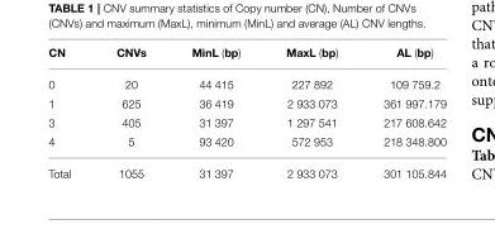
<table><thead><tr><td>CN</td><td>CNVs</td><td>MinL (bp)</td><td>MaxL (bp)</td><td>AL (bp)</td></tr></thead><tbody><tr><td>0</td><td>20</td><td>44 415</td><td>227 892</td><td>109 759.2</td></tr><tr><td>1</td><td>625</td><td>36 419</td><td>2 933 073</td><td>361 997.179</td></tr><tr><td>3</td><td>405</td><td>31 397</td><td>1 297 541</td><td>217 608.642</td></tr><tr><td>4</td><td>5</td><td>93 420</td><td>572 953</td><td>218 348.800</td></tr><tr><td>Total</td><td>1055</td><td>31 397</td><td>2 933 073</td><td>301 105.844</td></tr></tbody></table>